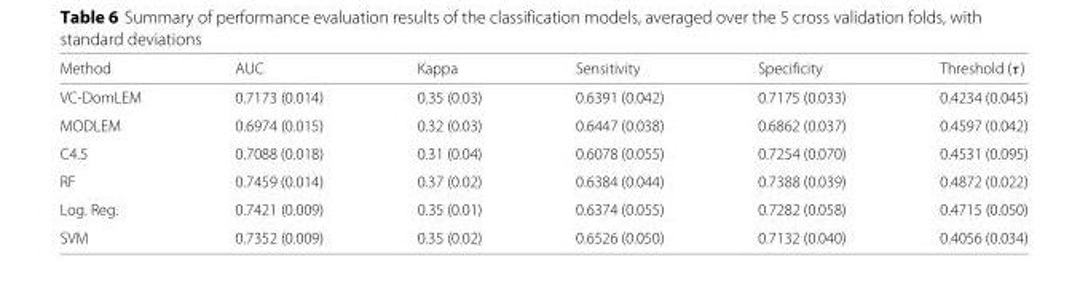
<table><thead><tr><td>Method</td><td>AUC</td><td>Kappa</td><td>Sensitivity</td><td>Specificity</td><td>Threshold (τ)</td></tr></thead><tbody><tr><td>VC-DomLEM</td><td>0.7173 (0.014)</td><td>0.35 (0.03)</td><td>0.6391 (0.042)</td><td>0.7175 (0.033)</td><td>0.4234 (0.045)</td></tr><tr><td>MODLEM</td><td>0.6974 (0.015)</td><td>0.32 (0.03)</td><td>0.6447 (0.038)</td><td>0.6862 (0.037)</td><td>0.4597 (0.042)</td></tr><tr><td>C4.5</td><td>0.7088 (0.018)</td><td>0.31 (0.04)</td><td>0.6078 (0.055)</td><td>0.7254 (0.070)</td><td>0.4531 (0.095)</td></tr><tr><td>RF</td><td>0.7459 (0.014)</td><td>0.37 (0.02)</td><td>0.6384 (0.044)</td><td>0.7388 (0.039)</td><td>0.4872 (0.022)</td></tr><tr><td>Log. Reg.</td><td>0.7421 (0.009)</td><td>0.35 (0.01)</td><td>0.6374 (0.055)</td><td>0.7282 (0.058)</td><td>0.4715 (0.050)</td></tr><tr><td>SVM</td><td>0.7352 (0.009)</td><td>0.35 (0.02)</td><td>0.6526 (0.050)</td><td>0.7132 (0.040)</td><td>0.4056 (0.034)</td></tr></tbody></table>